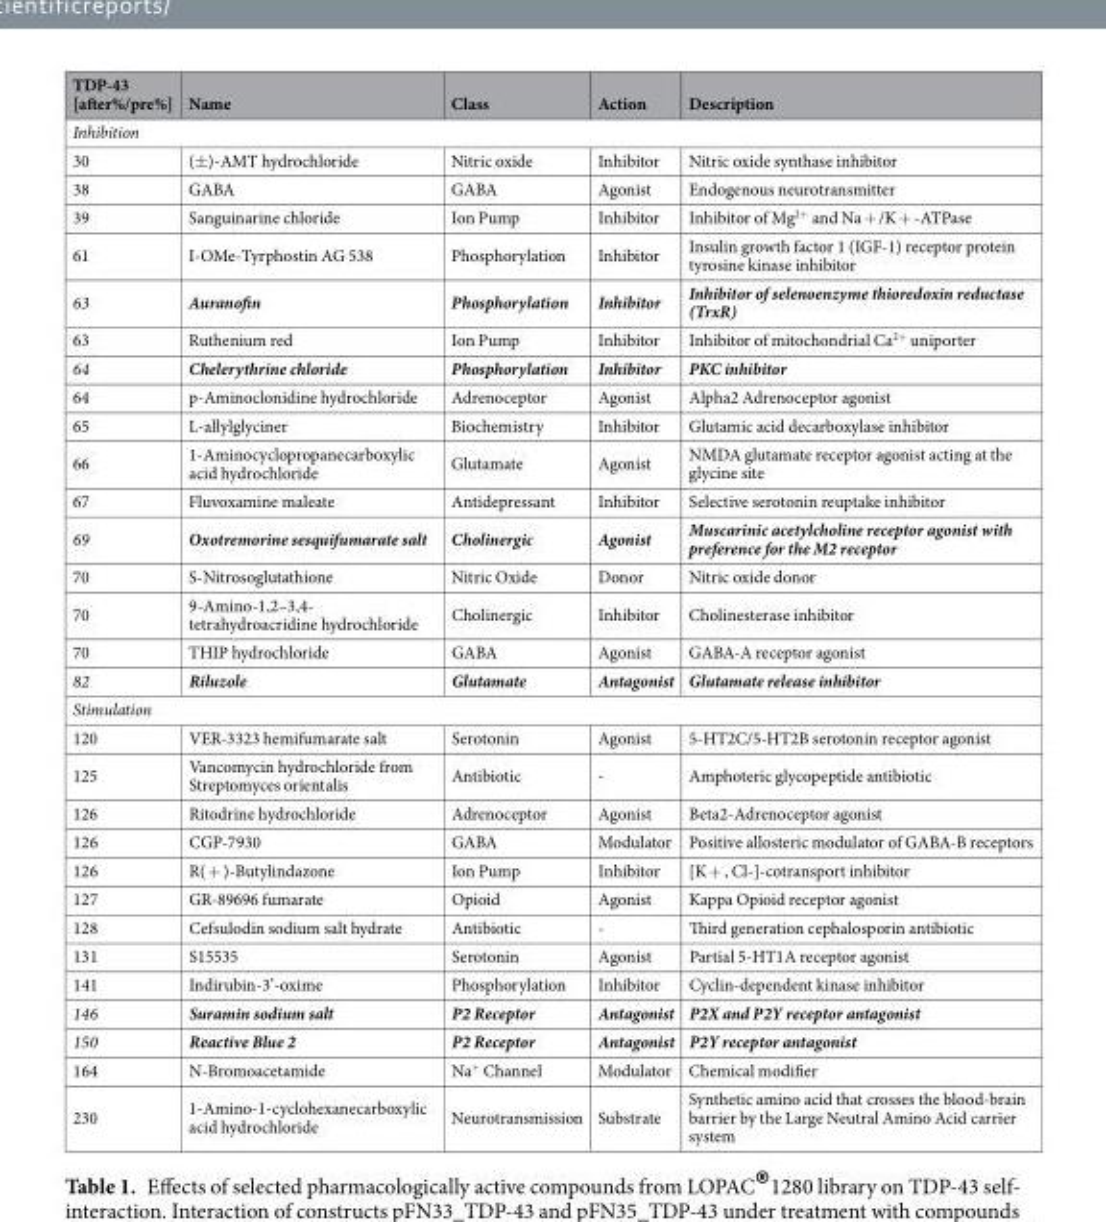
<table><thead><tr><td>TDP-43 [after%/pre%]</td><td>Name</td><td>Class</td><td>Action</td><td>Description</td></tr></thead><tbody><tr><td colspan="5">Inhibition</td></tr><tr><td>30</td><td>(±)-AMT hydrochloride</td><td>Nitric oxide</td><td>Inhibitor</td><td>Nitric oxide synthase inhibitor</td></tr><tr><td>38</td><td>GABA</td><td>GABA</td><td>Agonist</td><td>Endogenous neurotransmitter</td></tr><tr><td>39</td><td>Sanguinarine chloride</td><td>Ion Pump</td><td>Inhibitor</td><td>Inhibitor of Mg<sup>2+</sup> and Na + /K + -ATPase</td></tr><tr><td>61</td><td>I-OMe-Tyrphostin AG 538</td><td>Phosphorylation</td><td>Inhibitor</td><td>Insulin growth factor 1 (IGF-1) receptor protein tyrosine kinase inhibitor</td></tr><tr><td>63</td><td>Auranofin</td><td>Phosphorylation</td><td>Inhibitor</td><td>Inhibitor of selenoenzyme thioredoxin reductase (TrxR)</td></tr><tr><td>63</td><td>Ruthenium red</td><td>Ion Pump</td><td>Inhibitor</td><td>Inhibitor of mitochondrial Ca<sup>2+</sup> uniporter</td></tr><tr><td>64</td><td>Chelerythrine chloride</td><td>Phosphorylation</td><td>Inhibitor</td><td>PKC inhibitor</td></tr><tr><td>64</td><td>p-Aminoclonidine hydrochloride</td><td>Adrenoceptor</td><td>Agonist</td><td>Alpha2 Adrenoceptor agonist</td></tr><tr><td>65</td><td>L-allylglyciner</td><td>Biochemistry</td><td>Inhibitor</td><td>Glutamic acid decarboxylase inhibitor</td></tr><tr><td>66</td><td>1-Aminocyclopropanecarboxylic acid hydrochloride</td><td>Glutamate</td><td>Agonist</td><td>NMDA glutamate receptor agonist acting at the glycine site</td></tr><tr><td>67</td><td>Fluvoxamine maleate</td><td>Antidepressant</td><td>Inhibitor</td><td>Selective serotonin reuptake inhibitor</td></tr><tr><td>69</td><td>Oxotremorine sesquifumarate salt</td><td>Cholinergic</td><td>Agonist</td><td>Muscarinic acetylcholine receptor agonist with preference for the M2 receptor</td></tr><tr><td>70</td><td>S-Nitrosoglutathione</td><td>Nitric Oxide</td><td>Donor</td><td>Nitric oxide donor</td></tr><tr><td>70</td><td>9-Amino-1,2–3,4- tetrahydroacridine hydrochloride</td><td>Cholinergic</td><td>Inhibitor</td><td>Cholinesterase inhibitor</td></tr><tr><td>70</td><td>THIP hydrochloride</td><td>GABA</td><td>Agonist</td><td>GABA-A receptor agonist</td></tr><tr><td>82</td><td>Riluzole</td><td>Glutamate</td><td>Antagonist</td><td>Glutamate release inhibitor</td></tr><tr><td colspan="5">Stimulation</td></tr><tr><td>120</td><td>VER-3323 hemifumarate salt</td><td>Serotonin</td><td>Agonist</td><td>5-HT2C/5-HT2B serotonin receptor agonist</td></tr><tr><td>125</td><td>Vancomycin hydrochloride from Streptomyces orientalis</td><td>Antibiotic</td><td>-</td><td>Amphoteric glycopeptide antibiotic</td></tr><tr><td>126</td><td>Ritodrine hydrochloride</td><td>Adrenoceptor</td><td>Agonist</td><td>Beta2-Adrenoceptor agonist</td></tr><tr><td>126</td><td>CGP-7930</td><td>GABA</td><td>Modulator</td><td>Positive allosteric modulator of GABA-B receptors</td></tr><tr><td>126</td><td>R( + )-Butylindazone</td><td>Ion Pump</td><td>Inhibitor</td><td>[K + , Cl-]-cotransport inhibitor</td></tr><tr><td>127</td><td>GR-89696 fumarate</td><td>Opioid</td><td>Agonist</td><td>Kappa Opioid receptor agonist</td></tr><tr><td>128</td><td>Cefsulodin sodium salt hydrate</td><td>Antibiotic</td><td>-</td><td>Third generation cephalosporin antibiotic</td></tr><tr><td>131</td><td>S15535</td><td>Serotonin</td><td>Agonist</td><td>Partial 5-HT1A receptor agonist</td></tr><tr><td>141</td><td>Indirubin-3’-oxime</td><td>Phosphorylation</td><td>Inhibitor</td><td>Cyclin-dependent kinase inhibitor</td></tr><tr><td>146</td><td>Suramin sodium salt</td><td>P2 Receptor</td><td>Antagonist</td><td>P2X and P2Y receptor antagonist</td></tr><tr><td>150</td><td>Reactive Blue 2</td><td>P2 Receptor</td><td>Antagonist</td><td>P2Y receptor antagonist</td></tr><tr><td>164</td><td>N-Bromoacetamide</td><td>Na<sup>+</sup> Channel</td><td>Modulator</td><td>Chemical modifier</td></tr><tr><td>230</td><td>1-Amino-1-cyclohexanecarboxylic acid hydrochloride</td><td>Neurotransmission</td><td>Substrate</td><td>Synthetic amino acid that crosses the blood-brain barrier by the Large Neutral Amino Acid carrier system</td></tr></tbody></table>